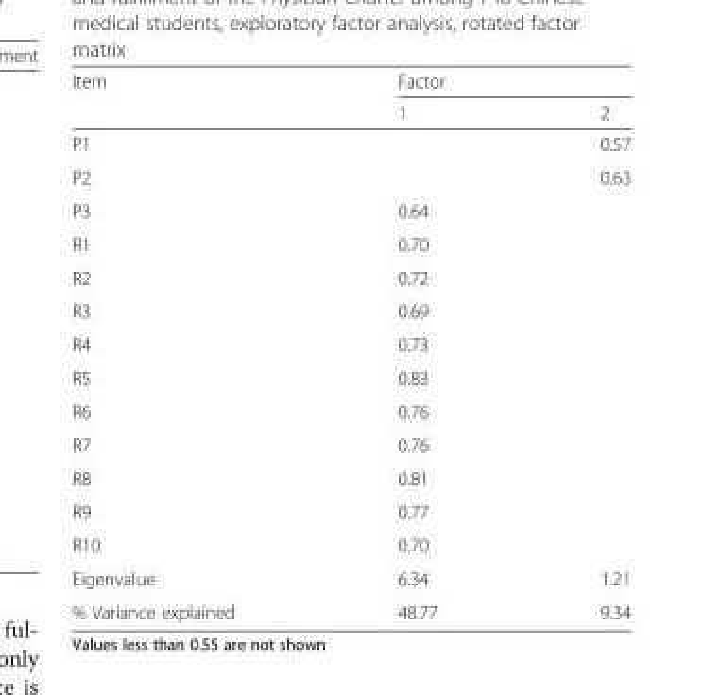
<table><thead><tr><td rowspan="2">Item</td><td colspan="2">Factor</td></tr><tr><td>1</td><td>2</td></tr></thead><tbody><tr><td>P1</td><td></td><td>0.57</td></tr><tr><td>P2</td><td></td><td>0.63</td></tr><tr><td>P3</td><td>0.64</td><td></td></tr><tr><td>R1</td><td>0.70</td><td></td></tr><tr><td>R2</td><td>0.72</td><td></td></tr><tr><td>R3</td><td>0.69</td><td></td></tr><tr><td>R4</td><td>0.73</td><td></td></tr><tr><td>R5</td><td>0.83</td><td></td></tr><tr><td>R6</td><td>0.76</td><td></td></tr><tr><td>R7</td><td>0.76</td><td></td></tr><tr><td>R8</td><td>0.81</td><td></td></tr><tr><td>R9</td><td>0.77</td><td></td></tr><tr><td>R10</td><td>0.70</td><td></td></tr><tr><td>Eigenvalue</td><td>6.34</td><td>1.21</td></tr><tr><td>% Variance explained</td><td>48.77</td><td>9.34</td></tr></tbody></table>